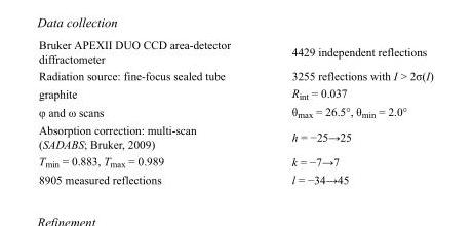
<table><tbody><tr><td>Bruker APEXII DUO CCD area-detector diffractometer</td><td>4429 independent reflections</td></tr><tr><td>Radiation source: fine-focus sealed tube</td><td>3255 reflections with I &gt; 2σ(I)</td></tr><tr><td>graphite</td><td>R<sub>int</sub> = 0.037</td></tr><tr><td>φ and ω scans</td><td>θ<sub>max</sub> = 26.5°, θ<sub>min</sub> = 2.0°</td></tr><tr><td>Absorption correction: multi-scan (SADABS; Bruker, 2009)</td><td>h = −25→25</td></tr><tr><td>T<sub>min</sub> = 0.883, T<sub>max</sub> = 0.989</td><td>k = −7→7</td></tr><tr><td>8905 measured reflections</td><td>l = −34→45</td></tr></tbody></table>